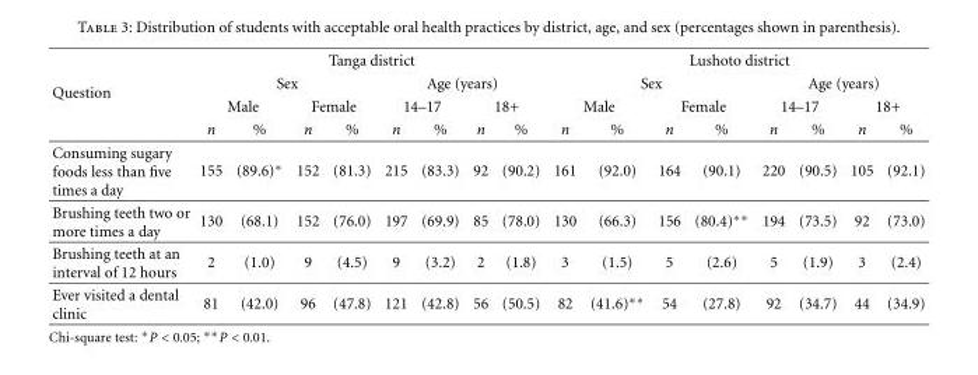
<table><tbody><tr><td rowspan="4">Question</td><td colspan="8">Tanga district</td><td colspan="8">Lushoto district</td></tr><tr><td colspan="4">Sex</td><td colspan="4">Age (years)</td><td colspan="4">Sex</td><td colspan="4">Age (years)</td></tr><tr><td colspan="2">Male</td><td colspan="2">Female</td><td colspan="2">14–17</td><td colspan="2">18+</td><td colspan="2">Male</td><td colspan="2">Female</td><td colspan="2">14–17</td><td colspan="2">18+</td></tr><tr><td>n</td><td>%</td><td>n</td><td>%</td><td>n</td><td>%</td><td>n</td><td>%</td><td>n</td><td>%</td><td>n</td><td>%</td><td>n</td><td>%</td><td>n</td><td>%</td></tr><tr><td>Consuming sugary foods less than five times a day</td><td>155</td><td>(89.6)∗</td><td>152</td><td>(81.3)</td><td>215</td><td>(83.3)</td><td>92</td><td>(90.2)</td><td>161</td><td>(92.0)</td><td>164</td><td>(90.1)</td><td>220</td><td>(90.5)</td><td>105</td><td>(92.1)</td></tr><tr><td>Brushing teeth two or more times a day</td><td>130</td><td>(68.1)</td><td>152</td><td>(76.0)</td><td>197</td><td>(69.9)</td><td>85</td><td>(78.0)</td><td>130</td><td>(66.3)</td><td>156</td><td>(80.4)∗∗</td><td>194</td><td>(73.5)</td><td>92</td><td>(73.0)</td></tr><tr><td>Brushing teeth at an interval of 12 hours</td><td>2</td><td>(1.0)</td><td>9</td><td>(4.5)</td><td>9</td><td>(3.2)</td><td>2</td><td>(1.8)</td><td>3</td><td>(1.5)</td><td>5</td><td>(2.6)</td><td>5</td><td>(1.9)</td><td>3</td><td>(2.4)</td></tr><tr><td>Ever visited a dental clinic</td><td>81</td><td>(42.0)</td><td>96</td><td>(47.8)</td><td>121</td><td>(42.8)</td><td>56</td><td>(50.5)</td><td>82</td><td>(41.6)∗∗</td><td>54</td><td>(27.8)</td><td>92</td><td>(34.7)</td><td>44</td><td>(34.9)</td></tr></tbody></table>